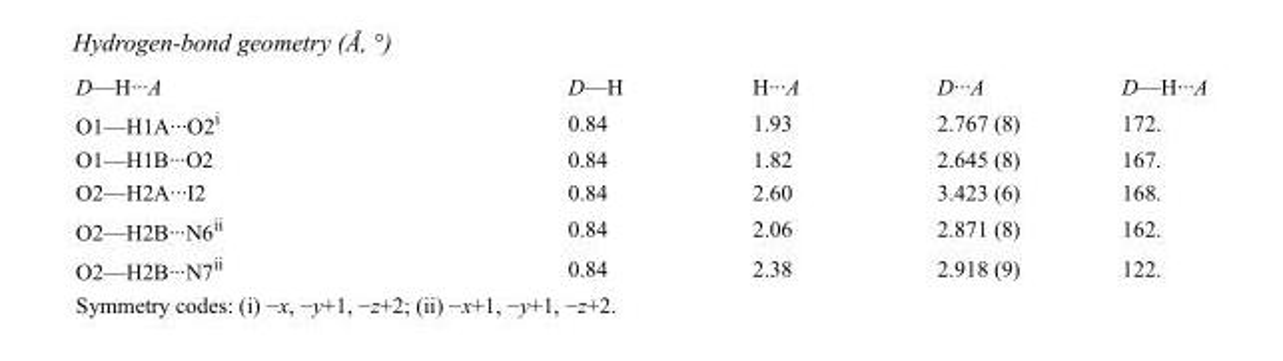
<table><tbody><tr><td>D—H···A</td><td>D—H</td><td>H···A</td><td>D···A</td><td>D—H···A</td></tr><tr><td>O1—H1A···O2<sup>i</sup></td><td>0.84</td><td>1.93</td><td>2.767 (8)</td><td>172.</td></tr><tr><td>O1—H1B···O2</td><td>0.84</td><td>1.82</td><td>2.645 (8)</td><td>167.</td></tr><tr><td>O2—H2A···I2</td><td>0.84</td><td>2.60</td><td>3.423 (6)</td><td>168.</td></tr><tr><td>O2—H2B···N6<sup>ii</sup></td><td>0.84</td><td>2.06</td><td>2.871 (8)</td><td>162.</td></tr><tr><td>O2—H2B···N7<sup>ii</sup></td><td>0.84</td><td>2.38</td><td>2.918 (9)</td><td>122.</td></tr></tbody></table>